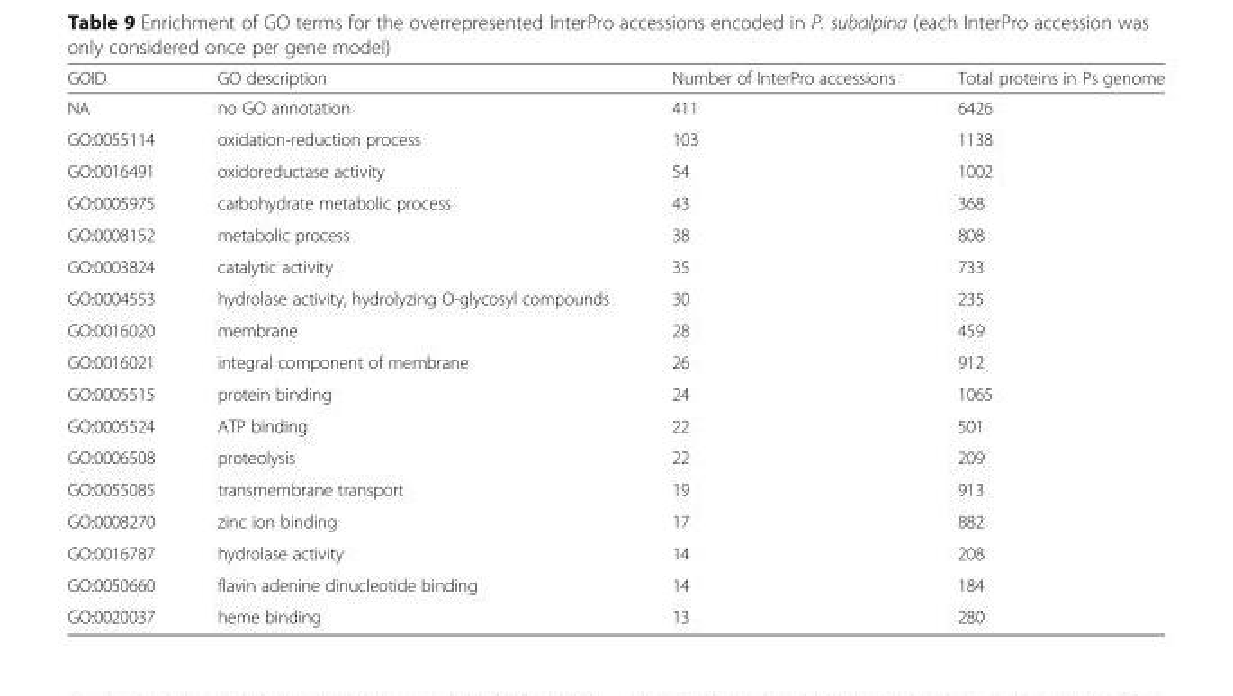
<table><thead><tr><td>GOID</td><td>GO description</td><td>Number of InterPro accessions</td><td>Total proteins in Ps genome</td></tr></thead><tbody><tr><td>NA</td><td>no GO annotation</td><td>411</td><td>6426</td></tr><tr><td>GO:0055114</td><td>oxidation-reduction process</td><td>103</td><td>1138</td></tr><tr><td>GO:0016491</td><td>oxidoreductase activity</td><td>54</td><td>1002</td></tr><tr><td>GO:0005975</td><td>carbohydrate metabolic process</td><td>43</td><td>368</td></tr><tr><td>GO:0008152</td><td>metabolic process</td><td>38</td><td>808</td></tr><tr><td>GO:0003824</td><td>catalytic activity</td><td>35</td><td>733</td></tr><tr><td>GO:0004553</td><td>hydrolase activity, hydrolyzing O-glycosyl compounds</td><td>30</td><td>235</td></tr><tr><td>GO:0016020</td><td>membrane</td><td>28</td><td>459</td></tr><tr><td>GO:0016021</td><td>integral component of membrane</td><td>26</td><td>912</td></tr><tr><td>GO:0005515</td><td>protein binding</td><td>24</td><td>1065</td></tr><tr><td>GO:0005524</td><td>ATP binding</td><td>22</td><td>501</td></tr><tr><td>GO:0006508</td><td>proteolysis</td><td>22</td><td>209</td></tr><tr><td>GO:0055085</td><td>transmembrane transport</td><td>19</td><td>913</td></tr><tr><td>GO:0008270</td><td>zinc ion binding</td><td>17</td><td>882</td></tr><tr><td>GO:0016787</td><td>hydrolase activity</td><td>14</td><td>208</td></tr><tr><td>GO:0050660</td><td>flavin adenine dinucleotide binding</td><td>14</td><td>184</td></tr><tr><td>GO:0020037</td><td>heme binding</td><td>13</td><td>280</td></tr></tbody></table>